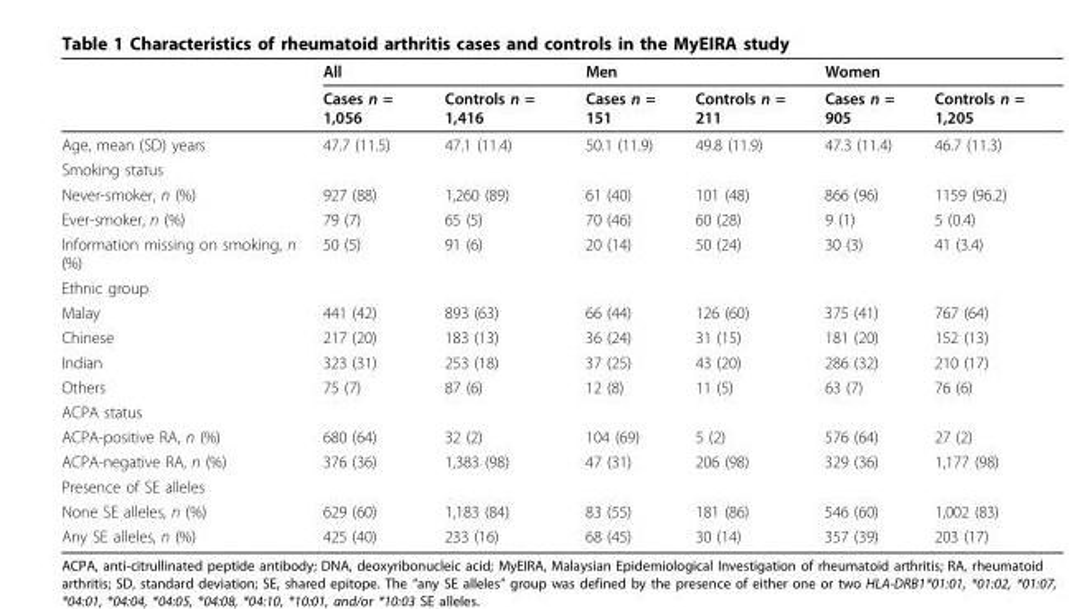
<table><thead><tr><td rowspan="2"></td><td colspan="2">All</td><td colspan="2">Men</td><td colspan="2">Women</td></tr><tr><td>Cases n = 1,056</td><td>Controls n = 1,416</td><td>Cases n = 151</td><td>Controls n = 211</td><td>Cases n = 905</td><td>Controls n = 1,205</td></tr></thead><tbody><tr><td>Age, mean (SD) years</td><td>47.7 (11.5)</td><td>47.1 (11.4)</td><td>50.1 (11.9)</td><td>49.8 (11.9)</td><td>47.3 (11.4)</td><td>46.7 (11.3)</td></tr><tr><td colspan="7">Smoking status</td></tr><tr><td>Never-smoker, n (%)</td><td>927 (88)</td><td>1,260 (89)</td><td>61 (40)</td><td>101 (48)</td><td>866 (96)</td><td>1159 (96.2)</td></tr><tr><td>Ever-smoker, n (%)</td><td>79 (7)</td><td>65 (5)</td><td>70 (46)</td><td>60 (28)</td><td>9 (1)</td><td>5 (0.4)</td></tr><tr><td>Information missing on smoking, n (%)</td><td>50 (5)</td><td>91 (6)</td><td>20 (14)</td><td>50 (24)</td><td>30 (3)</td><td>41 (3.4)</td></tr><tr><td colspan="7">Ethnic group</td></tr><tr><td>Malay</td><td>441 (42)</td><td>893 (63)</td><td>66 (44)</td><td>126 (60)</td><td>375 (41)</td><td>767 (64)</td></tr><tr><td>Chinese</td><td>217 (20)</td><td>183 (13)</td><td>36 (24)</td><td>31 (15)</td><td>181 (20)</td><td>152 (13)</td></tr><tr><td>Indian</td><td>323 (31)</td><td>253 (18)</td><td>37 (25)</td><td>43 (20)</td><td>286 (32)</td><td>210 (17)</td></tr><tr><td>Others</td><td>75 (7)</td><td>87 (6)</td><td>12 (8)</td><td>11 (5)</td><td>63 (7)</td><td>76 (6)</td></tr><tr><td colspan="7">ACPA status</td></tr><tr><td>ACPA-positive RA, n (%)</td><td>680 (64)</td><td>32 (2)</td><td>104 (69)</td><td>5 (2)</td><td>576 (64)</td><td>27 (2)</td></tr><tr><td>ACPA-negative RA, n (%)</td><td>376 (36)</td><td>1,383 (98)</td><td>47 (31)</td><td>206 (98)</td><td>329 (36)</td><td>1,177 (98)</td></tr><tr><td colspan="7">Presence of SE alleles</td></tr><tr><td>None SE alleles, n (%)</td><td>629 (60)</td><td>1,183 (84)</td><td>83 (55)</td><td>181 (86)</td><td>546 (60)</td><td>1,002 (83)</td></tr><tr><td>Any SE alleles, n (%)</td><td>425 (40)</td><td>233 (16)</td><td>68 (45)</td><td>30 (14)</td><td>357 (39)</td><td>203 (17)</td></tr></tbody></table>